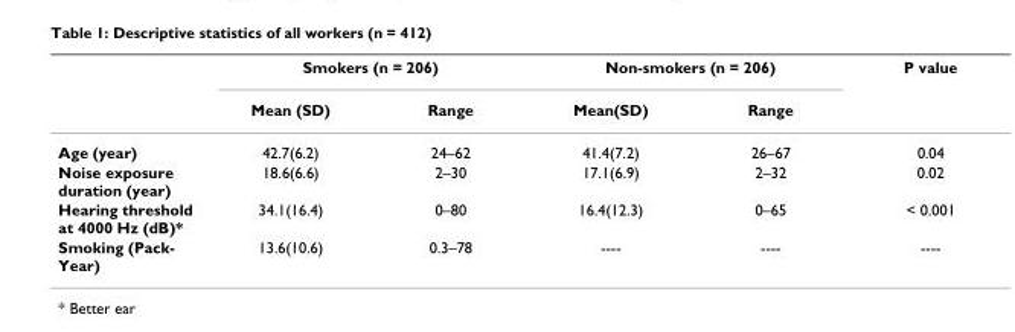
<table><thead><tr><td rowspan="2"></td><td colspan="2">Smokers (n = 206)</td><td colspan="2">Non-smokers (n = 206)</td><td rowspan="2">P value</td></tr><tr><td>Mean (SD)</td><td>Range</td><td>Mean(SD)</td><td>Range</td></tr></thead><tbody><tr><td>Age (year)</td><td>42.7(6.2)</td><td>24–62</td><td>41.4(7.2)</td><td>26–67</td><td>0.04</td></tr><tr><td>Noise exposure duration (year)</td><td>18.6(6.6)</td><td>2–30</td><td>17.1(6.9)</td><td>2–32</td><td>0.02</td></tr><tr><td>Hearing threshold at 4000 Hz (dB)*</td><td>34.1(16.4)</td><td>0–80</td><td>16.4(12.3)</td><td>0–65</td><td>&lt; 0.001</td></tr><tr><td>Smoking (Pack- Year)</td><td>13.6(10.6)</td><td>0.3–78</td><td>----</td><td>----</td><td>----</td></tr></tbody></table>